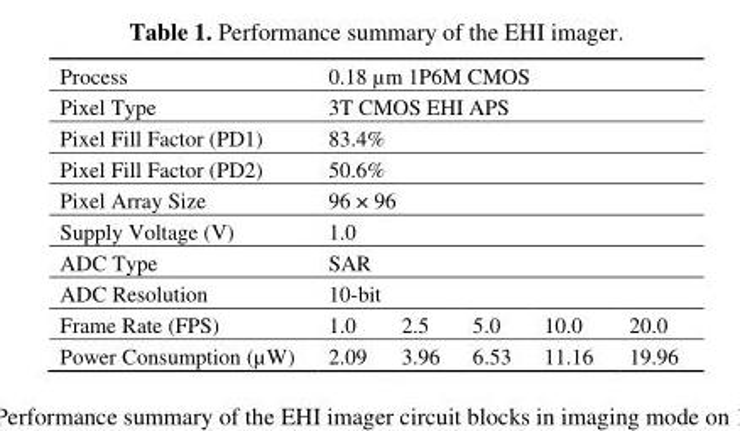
<table><tbody><tr><td>Process</td><td colspan="5">0.18 µm 1P6M CMOS</td></tr><tr><td>Pixel Type</td><td colspan="5">3T CMOS EHI APS</td></tr><tr><td>Pixel Fill Factor (PD1)</td><td colspan="5">83.4%</td></tr><tr><td>Pixel Fill Factor (PD2)</td><td colspan="5">50.6%</td></tr><tr><td>Pixel Array Size</td><td colspan="5">96 × 96</td></tr><tr><td>Supply Voltage (V)</td><td colspan="5">1.0</td></tr><tr><td>ADC Type</td><td colspan="5">SAR</td></tr><tr><td>ADC Resolution</td><td colspan="5">10-bit</td></tr><tr><td>Frame Rate (FPS)</td><td>1.0</td><td>2.5</td><td>5.0</td><td>10.0</td><td>20.0</td></tr><tr><td>Power Consumption (µW)</td><td>2.09</td><td>3.96</td><td>6.53</td><td>11.16</td><td>19.96</td></tr></tbody></table>